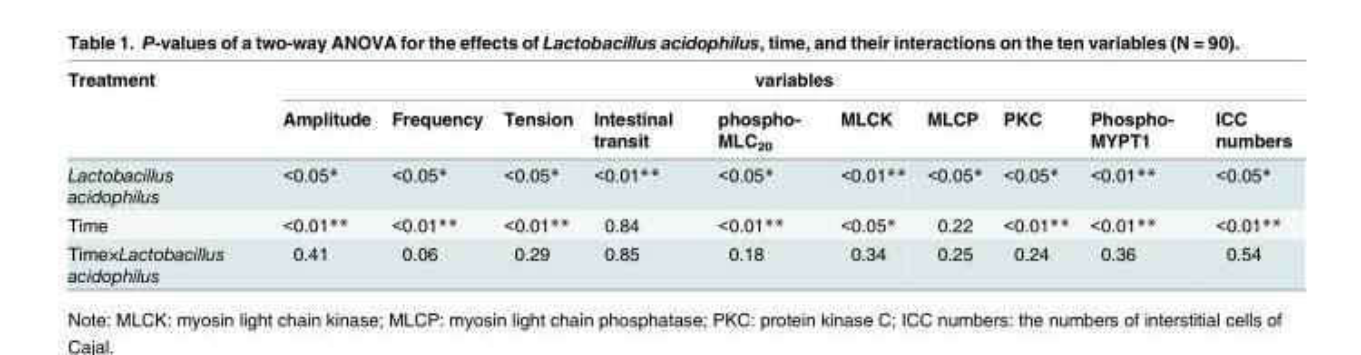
<table><thead><tr><td rowspan="2">Treatment</td><td colspan="10">variables</td></tr><tr><td>Amplitude</td><td>Frequency</td><td>Tension</td><td>Intestinal transit</td><td>phospho- MLC<sub>20</sub></td><td>MLCK</td><td>MLCP</td><td>PKC</td><td>Phospho- MYPT1</td><td>ICC numbers</td></tr></thead><tbody><tr><td>Lactobacillus acidophilus</td><td>&lt;0.05*</td><td>&lt;0.05*</td><td>&lt;0.05*</td><td>&lt;0.01**</td><td>&lt;0.05*</td><td>&lt;0.01**</td><td>&lt;0.05*</td><td>&lt;0.05*</td><td>&lt;0.01**</td><td>&lt;0.05*</td></tr><tr><td>Time</td><td>&lt;0.01**</td><td>&lt;0.01**</td><td>&lt;0.01**</td><td>0.84</td><td>&lt;0.01**</td><td>&lt;0.05*</td><td>0.22</td><td>&lt;0.01**</td><td>&lt;0.01**</td><td>&lt;0.01**</td></tr><tr><td>Time×Lactobacillus acidophilus</td><td>0.41</td><td>0.06</td><td>0.29</td><td>0.85</td><td>0.18</td><td>0.34</td><td>0.25</td><td>0.24</td><td>0.36</td><td>0.54</td></tr></tbody></table>